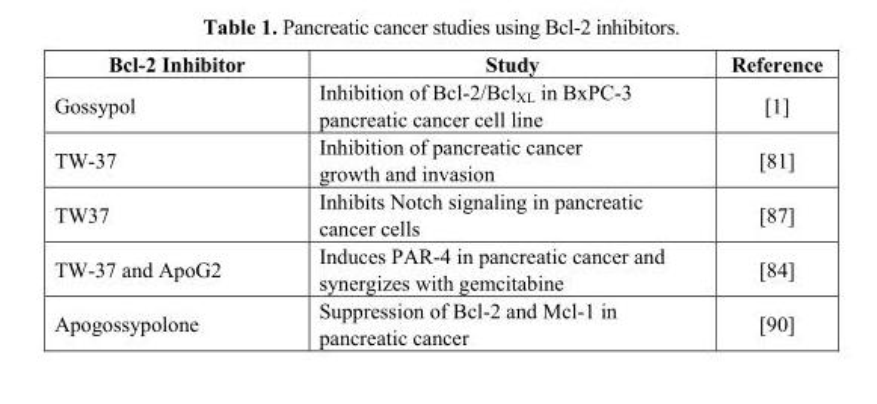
<table><thead><tr><td>Bcl-2 Inhibitor</td><td>Study</td><td>Reference</td></tr></thead><tbody><tr><td>Gossypol</td><td>Inhibition of Bcl-2/Bcl<sub>XL</sub> in BxPC-3 pancreatic cancer cell line</td><td>[1]</td></tr><tr><td>TW-37</td><td>Inhibition of pancreatic cancer growth and invasion</td><td>[81]</td></tr><tr><td>TW37</td><td>Inhibits Notch signaling in pancreatic cancer cells</td><td>[87]</td></tr><tr><td>TW-37 and ApoG2</td><td>Induces PAR-4 in pancreatic cancer and synergizes with gemcitabine</td><td>[84]</td></tr><tr><td>Apogossypolone</td><td>Suppression of Bcl-2 and Mcl-1 in pancreatic cancer</td><td>[90]</td></tr></tbody></table>